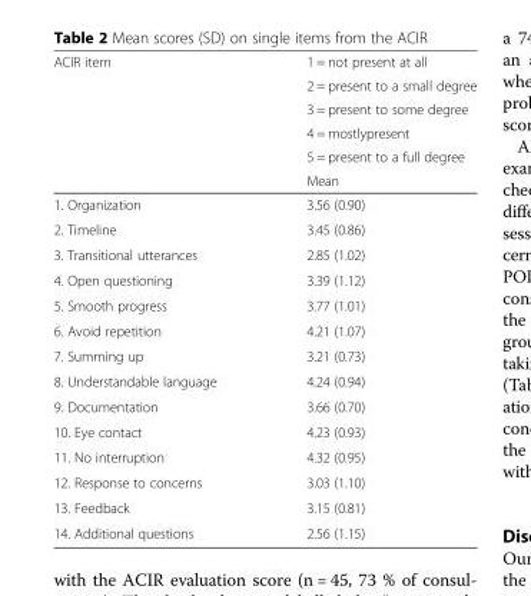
<table><thead><tr><td rowspan="6">ACIR item</td><td rowspan="6">1 = not present at all 2 = present to a small degree 3 = present to some degree 4 = mostlypresent 5 = present to a full degree Mean</td></tr><tr></tr><tr></tr><tr></tr><tr></tr><tr></tr></thead><tbody><tr><td>1. Organization</td><td>3.56 (0.90)</td></tr><tr><td>2. Timeline</td><td>3.45 (0.86)</td></tr><tr><td>3. Transitional utterances</td><td>2.85 (1.02)</td></tr><tr><td>4. Open questioning</td><td>3.39 (1.12)</td></tr><tr><td>5. Smooth progress</td><td>3.77 (1.01)</td></tr><tr><td>6. Avoid repetition</td><td>4.21 (1.07)</td></tr><tr><td>7. Summing up</td><td>3.21 (0.73)</td></tr><tr><td>8. Understandable language</td><td>4.24 (0.94)</td></tr><tr><td>9. Documentation</td><td>3.66 (0.70)</td></tr><tr><td>10. Eye contact</td><td>4.23 (0.93)</td></tr><tr><td>11. No interruption</td><td>4.32 (0.95)</td></tr><tr><td>12. Response to concerns</td><td>3.03 (1.10)</td></tr><tr><td>13. Feedback</td><td>3.15 (0.81)</td></tr><tr><td>14. Additional questions</td><td>2.56 (1.15)</td></tr></tbody></table>